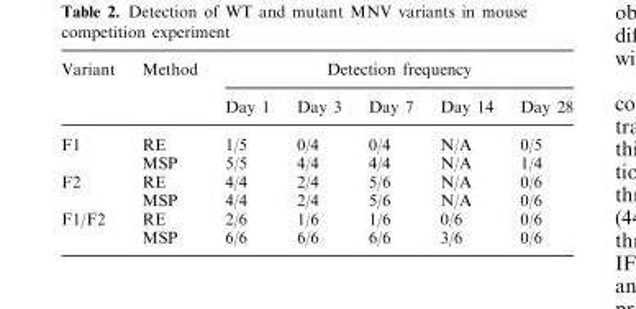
<table><thead><tr><td rowspan="2">Variant</td><td rowspan="2">Method</td><td colspan="5">Detection frequency</td></tr><tr><td>Day 1</td><td>Day 3</td><td>Day 7</td><td>Day 14</td><td>Day 28</td></tr></thead><tbody><tr><td rowspan="2">F1</td><td>RE</td><td>1/5</td><td>0/4</td><td>0/4</td><td>N/A</td><td>0/5</td></tr><tr><td>MSP</td><td>5/5</td><td>4/4</td><td>4/4</td><td>N/A</td><td>1/4</td></tr><tr><td rowspan="2">F2</td><td>RE</td><td>4/4</td><td>2/4</td><td>5/6</td><td>N/A</td><td>0/6</td></tr><tr><td>MSP</td><td>4/4</td><td>2/4</td><td>5/6</td><td>N/A</td><td>0/6</td></tr><tr><td rowspan="2">F1/F2</td><td>RE</td><td>2/6</td><td>1/6</td><td>1/6</td><td>0/6</td><td>0/6</td></tr><tr><td>MSP</td><td>6/6</td><td>6/6</td><td>6/6</td><td>3/6</td><td>0/6</td></tr></tbody></table>